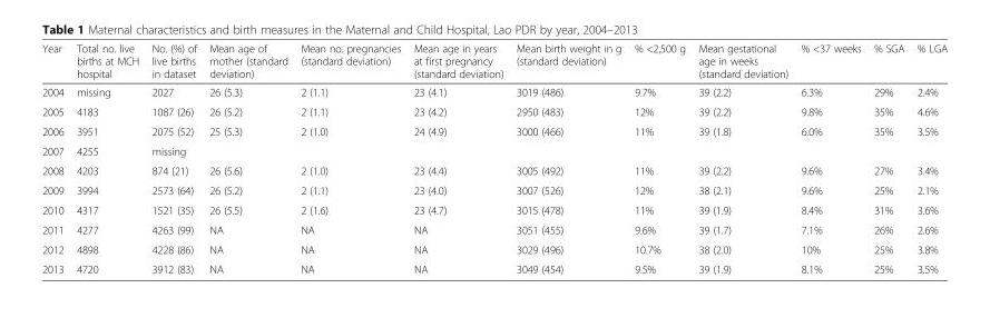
<table><thead><tr><td>Year</td><td>Total no. live births at MCH hospital</td><td>No. (%) of live births in dataset</td><td>Mean age of mother (standard deviation)</td><td>Mean no. pregnancies (standard deviation)</td><td>Mean age in years at first pregnancy (standard deviation)</td><td>Mean birth weight in g (standard deviation)</td><td>% &lt;2,500 g</td><td>Mean gestational age in weeks (standard deviation)</td><td>% &lt;37 weeks</td><td>% SGA</td><td>% LGA</td></tr></thead><tbody><tr><td>2004</td><td>missing</td><td>2027</td><td>26 (5.3)</td><td>2 (1.1)</td><td>23 (4.1)</td><td>3019 (486)</td><td>9.7%</td><td>39 (2.2)</td><td>6.3%</td><td>29%</td><td>2.4%</td></tr><tr><td>2005</td><td>4183</td><td>1087 (26)</td><td>26 (5.2)</td><td>2 (1.1)</td><td>23 (4.2)</td><td>2950 (483)</td><td>12%</td><td>39 (2.2)</td><td>9.8%</td><td>35%</td><td>4.6%</td></tr><tr><td>2006</td><td>3951</td><td>2075 (52)</td><td>25 (5.3)</td><td>2 (1.0)</td><td>24 (4.9)</td><td>3000 (466)</td><td>11%</td><td>39 (1.8)</td><td>6.0%</td><td>35%</td><td>3.5%</td></tr><tr><td>2007</td><td>4255</td><td>missing</td><td></td><td></td><td></td><td></td><td></td><td></td><td></td><td></td><td></td></tr><tr><td>2008</td><td>4203</td><td>874 (21)</td><td>26 (5.6)</td><td>2 (1.0)</td><td>23 (4.4)</td><td>3005 (492)</td><td>11%</td><td>39 (2.2)</td><td>9.6%</td><td>27%</td><td>3.4%</td></tr><tr><td>2009</td><td>3994</td><td>2573 (64)</td><td>26 (5.2)</td><td>2 (1.1)</td><td>23 (4.0)</td><td>3007 (526)</td><td>12%</td><td>38 (2.1)</td><td>9.6%</td><td>25%</td><td>2.1%</td></tr><tr><td>2010</td><td>4317</td><td>1521 (35)</td><td>26 (5.5)</td><td>2 (1.6)</td><td>23 (4.7)</td><td>3015 (478)</td><td>11%</td><td>39 (1.9)</td><td>8.4%</td><td>31%</td><td>3.6%</td></tr><tr><td>2011</td><td>4277</td><td>4263 (99)</td><td>NA</td><td>NA</td><td>NA</td><td>3051 (455)</td><td>9.6%</td><td>39 (1.7)</td><td>7.1%</td><td>26%</td><td>2.6%</td></tr><tr><td>2012</td><td>4898</td><td>4228 (86)</td><td>NA</td><td>NA</td><td>NA</td><td>3029 (496)</td><td>10.7%</td><td>38 (2.0)</td><td>10%</td><td>25%</td><td>3.8%</td></tr><tr><td>2013</td><td>4720</td><td>3912 (83)</td><td>NA</td><td>NA</td><td>NA</td><td>3049 (454)</td><td>9.5%</td><td>39 (1.9)</td><td>8.1%</td><td>25%</td><td>3.5%</td></tr></tbody></table>